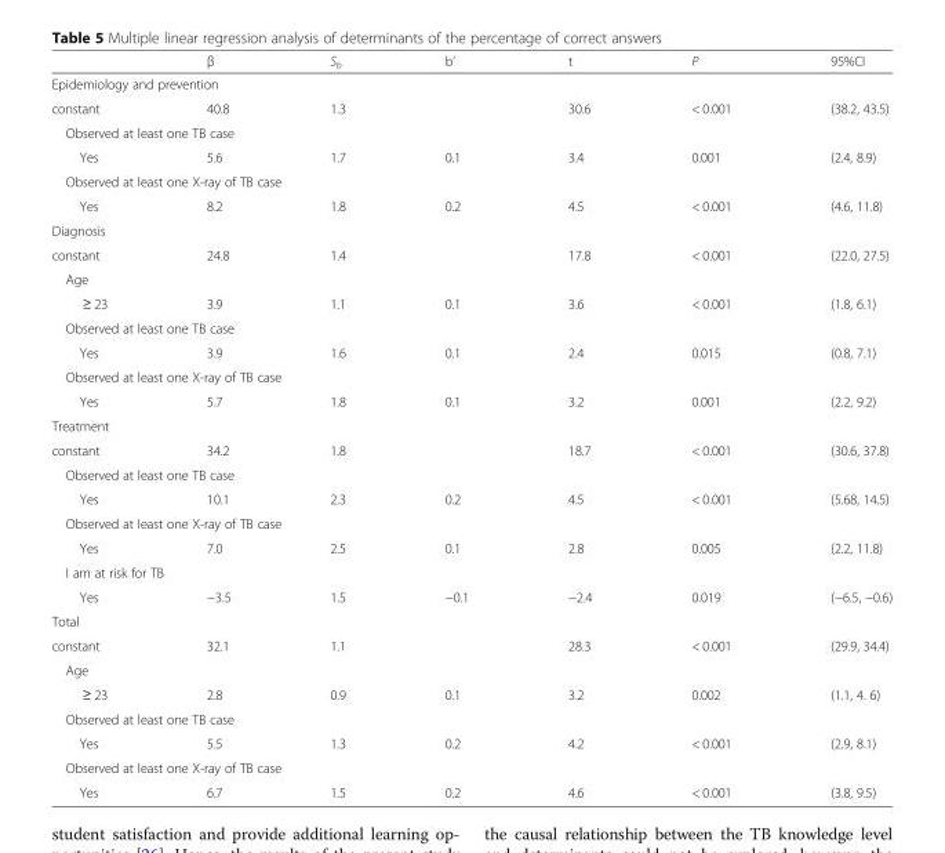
<table><thead><tr><td></td><td>β</td><td>S<sub>b</sub></td><td>b’</td><td>t</td><td>P</td><td>95%CI</td></tr></thead><tbody><tr><td colspan="7">Epidemiology and prevention</td></tr><tr><td>constant</td><td>40.8</td><td>1.3</td><td></td><td>30.6</td><td>&lt; 0.001</td><td>(38.2, 43.5)</td></tr><tr><td colspan="7">Observed at least one TB case</td></tr><tr><td>Yes</td><td>5.6</td><td>1.7</td><td>0.1</td><td>3.4</td><td>0.001</td><td>(2.4, 8.9)</td></tr><tr><td colspan="7">Observed at least one X-ray of TB case</td></tr><tr><td>Yes</td><td>8.2</td><td>1.8</td><td>0.2</td><td>4.5</td><td>&lt; 0.001</td><td>(4.6, 11.8)</td></tr><tr><td colspan="7">Diagnosis</td></tr><tr><td>constant</td><td>24.8</td><td>1.4</td><td></td><td>17.8</td><td>&lt; 0.001</td><td>(22.0, 27.5)</td></tr><tr><td colspan="7">Age</td></tr><tr><td>≥ 23</td><td>3.9</td><td>1.1</td><td>0.1</td><td>3.6</td><td>&lt; 0.001</td><td>(1.8, 6.1)</td></tr><tr><td colspan="7">Observed at least one TB case</td></tr><tr><td>Yes</td><td>3.9</td><td>1.6</td><td>0.1</td><td>2.4</td><td>0.015</td><td>(0.8, 7.1)</td></tr><tr><td colspan="7">Observed at least one X-ray of TB case</td></tr><tr><td>Yes</td><td>5.7</td><td>1.8</td><td>0.1</td><td>3.2</td><td>0.001</td><td>(2.2, 9.2)</td></tr><tr><td colspan="7">Treatment</td></tr><tr><td>constant</td><td>34.2</td><td>1.8</td><td></td><td>18.7</td><td>&lt; 0.001</td><td>(30.6, 37.8)</td></tr><tr><td colspan="7">Observed at least one TB case</td></tr><tr><td>Yes</td><td>10.1</td><td>2.3</td><td>0.2</td><td>4.5</td><td>&lt; 0.001</td><td>(5.68, 14.5)</td></tr><tr><td colspan="7">Observed at least one X-ray of TB case</td></tr><tr><td>Yes</td><td>7.0</td><td>2.5</td><td>0.1</td><td>2.8</td><td>0.005</td><td>(2.2, 11.8)</td></tr><tr><td colspan="7">I am at risk for TB</td></tr><tr><td>Yes</td><td>−3.5</td><td>1.5</td><td>−0.1</td><td>−2.4</td><td>0.019</td><td>(−6.5, −0.6)</td></tr><tr><td colspan="7">Total</td></tr><tr><td>constant</td><td>32.1</td><td>1.1</td><td></td><td>28.3</td><td>&lt; 0.001</td><td>(29.9, 34.4)</td></tr><tr><td colspan="7">Age</td></tr><tr><td>≥ 23</td><td>2.8</td><td>0.9</td><td>0.1</td><td>3.2</td><td>0.002</td><td>(1.1, 4. 6)</td></tr><tr><td colspan="7">Observed at least one TB case</td></tr><tr><td>Yes</td><td>5.5</td><td>1.3</td><td>0.2</td><td>4.2</td><td>&lt; 0.001</td><td>(2.9, 8.1)</td></tr><tr><td colspan="7">Observed at least one X-ray of TB case</td></tr><tr><td>Yes</td><td>6.7</td><td>1.5</td><td>0.2</td><td>4.6</td><td>&lt; 0.001</td><td>(3.8, 9.5)</td></tr></tbody></table>